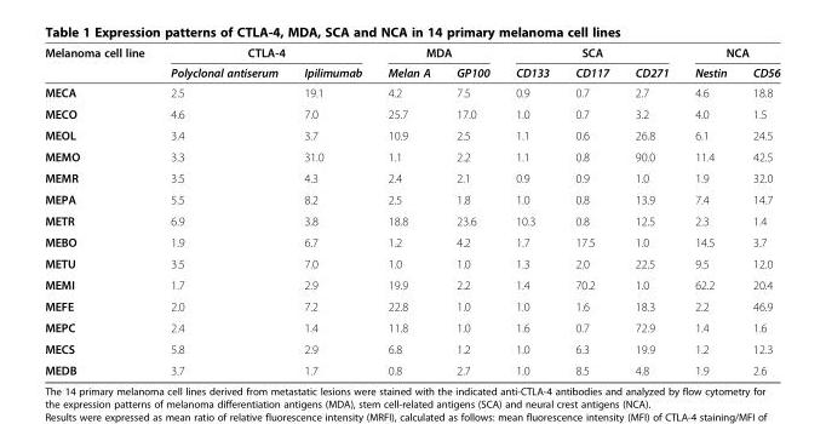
<table><thead><tr><td rowspan="2">Melanoma cell line</td><td colspan="2">CTLA-4</td><td colspan="2">MDA</td><td colspan="3">SCA</td><td colspan="2">NCA</td></tr><tr><td>Polyclonal antiserum</td><td>Ipilimumab</td><td>Melan A</td><td>GP100</td><td>CD133</td><td>CD117</td><td>CD271</td><td>Nestin</td><td>CD56</td></tr></thead><tbody><tr><td>MECA</td><td>2.5</td><td>19.1</td><td>4.2</td><td>7.5</td><td>0.9</td><td>0.7</td><td>2.7</td><td>4.6</td><td>18.8</td></tr><tr><td>MECO</td><td>4.6</td><td>7.0</td><td>25.7</td><td>17.0</td><td>1.0</td><td>0.7</td><td>3.2</td><td>4.0</td><td>1.5</td></tr><tr><td>MEOL</td><td>3.4</td><td>3.7</td><td>10.9</td><td>2.5</td><td>1.1</td><td>0.6</td><td>26.8</td><td>6.1</td><td>24.5</td></tr><tr><td>MEMO</td><td>3.3</td><td>31.0</td><td>1.1</td><td>2.2</td><td>1.1</td><td>0.8</td><td>90.0</td><td>11.4</td><td>42.5</td></tr><tr><td>MEMR</td><td>3.5</td><td>4.3</td><td>2.4</td><td>2.1</td><td>0.9</td><td>0.9</td><td>1.0</td><td>1.9</td><td>32.0</td></tr><tr><td>MEPA</td><td>5.5</td><td>8.2</td><td>2.5</td><td>1.8</td><td>1.0</td><td>0.8</td><td>13.9</td><td>7.4</td><td>14.7</td></tr><tr><td>METR</td><td>6.9</td><td>3.8</td><td>18.8</td><td>23.6</td><td>10.3</td><td>0.8</td><td>12.5</td><td>2.3</td><td>1.4</td></tr><tr><td>MEBO</td><td>1.9</td><td>6.7</td><td>1.2</td><td>4.2</td><td>1.7</td><td>17.5</td><td>1.0</td><td>14.5</td><td>3.7</td></tr><tr><td>METU</td><td>3.5</td><td>7.0</td><td>1.0</td><td>1.0</td><td>1.3</td><td>2.0</td><td>22.5</td><td>9.5</td><td>12.0</td></tr><tr><td>MEMI</td><td>1.7</td><td>2.9</td><td>19.9</td><td>2.2</td><td>1.4</td><td>70.2</td><td>1.0</td><td>62.2</td><td>20.4</td></tr><tr><td>MEFE</td><td>2.0</td><td>7.2</td><td>22.8</td><td>1.0</td><td>1.0</td><td>1.6</td><td>18.3</td><td>2.2</td><td>46.9</td></tr><tr><td>MEPC</td><td>2.4</td><td>1.4</td><td>11.8</td><td>1.0</td><td>1.6</td><td>0.7</td><td>72.9</td><td>1.4</td><td>1.6</td></tr><tr><td>MECS</td><td>5.8</td><td>2.9</td><td>6.8</td><td>1.2</td><td>1.0</td><td>6.3</td><td>19.9</td><td>1.2</td><td>12.3</td></tr><tr><td>MEDB</td><td>3.7</td><td>1.7</td><td>0.8</td><td>2.7</td><td>1.0</td><td>8.5</td><td>4.8</td><td>1.9</td><td>2.6</td></tr></tbody></table>